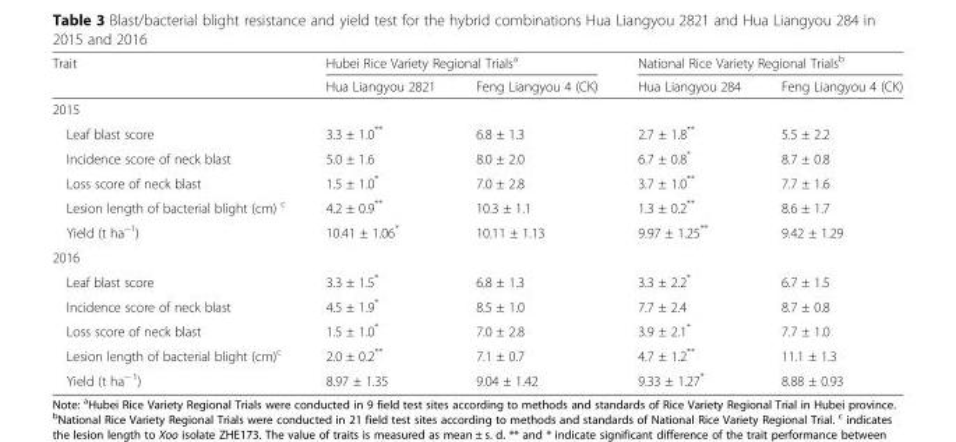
<table><thead><tr><td rowspan="2">Trait</td><td colspan="2">Hubei Rice Variety Regional Trials<sup>a</sup></td><td colspan="2">National Rice Variety Regional Trials<sup>b</sup></td></tr><tr><td>Hua Liangyou 2821</td><td>Feng Liangyou 4 (CK)</td><td>Hua Liangyou 284</td><td>Feng Liangyou 4 (CK)</td></tr></thead><tbody><tr><td colspan="5">2015</td></tr><tr><td>Leaf blast score</td><td>3.3 ± 1.0**</td><td>6.8 ± 1.3</td><td>2.7 ± 1.8**</td><td>5.5 ± 2.2</td></tr><tr><td>Incidence score of neck blast</td><td>5.0 ± 1.6</td><td>8.0 ± 2.0</td><td>6.7 ± 0.8*</td><td>8.7 ± 0.8</td></tr><tr><td>Loss score of neck blast</td><td>1.5 ± 1.0*</td><td>7.0 ± 2.8</td><td>3.7 ± 1.0**</td><td>7.7 ± 1.6</td></tr><tr><td>Lesion length of bacterial blight (cm) <sup>c</sup></td><td>4.2 ± 0.9**</td><td>10.3 ± 1.1</td><td>1.3 ± 0.2**</td><td>8.6 ± 1.7</td></tr><tr><td>Yield (t ha<sup>−1</sup>)</td><td>10.41 ± 1.06*</td><td>10.11 ± 1.13</td><td>9.97 ± 1.25**</td><td>9.42 ± 1.29</td></tr><tr><td colspan="5">2016</td></tr><tr><td>Leaf blast score</td><td>3.3 ± 1.5*</td><td>6.8 ± 1.3</td><td>3.3 ± 2.2*</td><td>6.7 ± 1.5</td></tr><tr><td>Incidence score of neck blast</td><td>4.5 ± 1.9*</td><td>8.5 ± 1.0</td><td>7.7 ± 2.4</td><td>8.7 ± 0.8</td></tr><tr><td>Loss score of neck blast</td><td>1.5 ± 1.0*</td><td>7.0 ± 2.8</td><td>3.9 ± 2.1*</td><td>7.7 ± 1.0</td></tr><tr><td>Lesion length of bacterial blight (cm)<sup>c</sup></td><td>2.0 ± 0.2**</td><td>7.1 ± 0.7</td><td>4.7 ± 1.2**</td><td>11.1 ± 1.3</td></tr><tr><td>Yield (t ha<sup>− 1</sup>)</td><td>8.97 ± 1.35</td><td>9.04 ± 1.42</td><td>9.33 ± 1.27*</td><td>8.88 ± 0.93</td></tr></tbody></table>